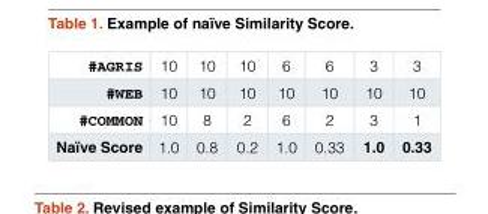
<table><tbody><tr><td>#AGRIS</td><td>10</td><td>10</td><td>10</td><td>6</td><td>6</td><td>3</td><td>3</td></tr><tr><td>#WEB</td><td>10</td><td>10</td><td>10</td><td>10</td><td>10</td><td>10</td><td>10</td></tr><tr><td>#COMMON</td><td>10</td><td>8</td><td>2</td><td>6</td><td>2</td><td>3</td><td>1</td></tr><tr><td>Naïve Score</td><td>1.0</td><td>0.8</td><td>0.2</td><td>1.0</td><td>0.33</td><td>1.0</td><td>0.33</td></tr></tbody></table>